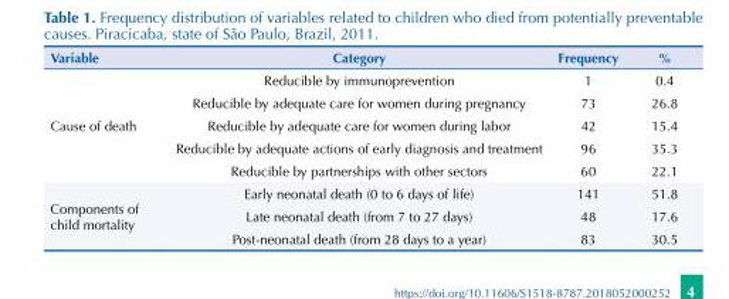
<table><thead><tr><td>Variable</td><td>Category</td><td>Frequency</td><td>%</td></tr></thead><tbody><tr><td rowspan="5">Cause of death</td><td>Reducible by immunoprevention</td><td>1</td><td>0.4</td></tr><tr><td>Reducible by adequate care for women during pregnancy</td><td>73</td><td>26.8</td></tr><tr><td>Reducible by adequate care for women during labor</td><td>42</td><td>15.4</td></tr><tr><td>Reducible by adequate actions of early diagnosis and treatment</td><td>96</td><td>35.3</td></tr><tr><td>Reducible by partnerships with other sectors</td><td>60</td><td>22.1</td></tr><tr><td rowspan="3">Components of child mortality</td><td>Early neonatal death (0 to 6 days of life)</td><td>141</td><td>51.8</td></tr><tr><td>Late neonatal death (from 7 to 27 days)</td><td>48</td><td>17.6</td></tr><tr><td>Post-neonatal death (from 28 days to a year)</td><td>83</td><td>30.5</td></tr></tbody></table>